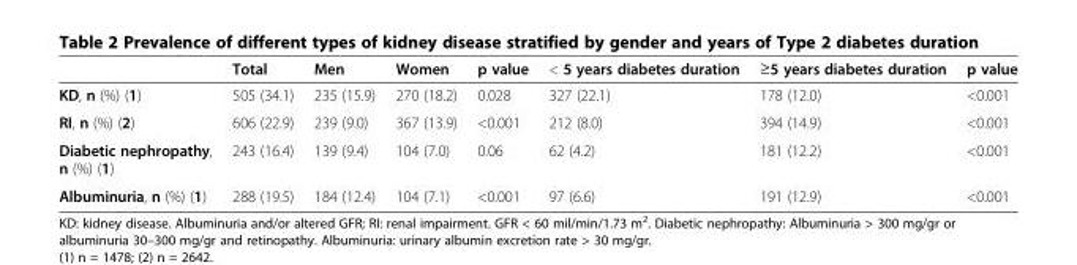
<table><thead><tr><td></td><td>Total</td><td>Men</td><td>Women</td><td>p value</td><td>&lt; 5 years diabetes duration</td><td>≥5 years diabetes duration</td><td>p value</td></tr></thead><tbody><tr><td>KD, n (%) (1)</td><td>505 (34.1)</td><td>235 (15.9)</td><td>270 (18.2)</td><td>0.028</td><td>327 (22.1)</td><td>178 (12.0)</td><td>&lt;0.001</td></tr><tr><td>RI, n (%) (2)</td><td>606 (22.9)</td><td>239 (9.0)</td><td>367 (13.9)</td><td>&lt;0.001</td><td>212 (8.0)</td><td>394 (14.9)</td><td>&lt;0.001</td></tr><tr><td>Diabetic nephropathy, n (%) (1)</td><td>243 (16.4)</td><td>139 (9.4)</td><td>104 (7.0)</td><td>0.06</td><td>62 (4.2)</td><td>181 (12.2)</td><td>&lt;0.001</td></tr><tr><td>Albuminuria, n (%) (1)</td><td>288 (19.5)</td><td>184 (12.4)</td><td>104 (7.1)</td><td>&lt;0.001</td><td>97 (6.6)</td><td>191 (12.9)</td><td>&lt;0.001</td></tr></tbody></table>